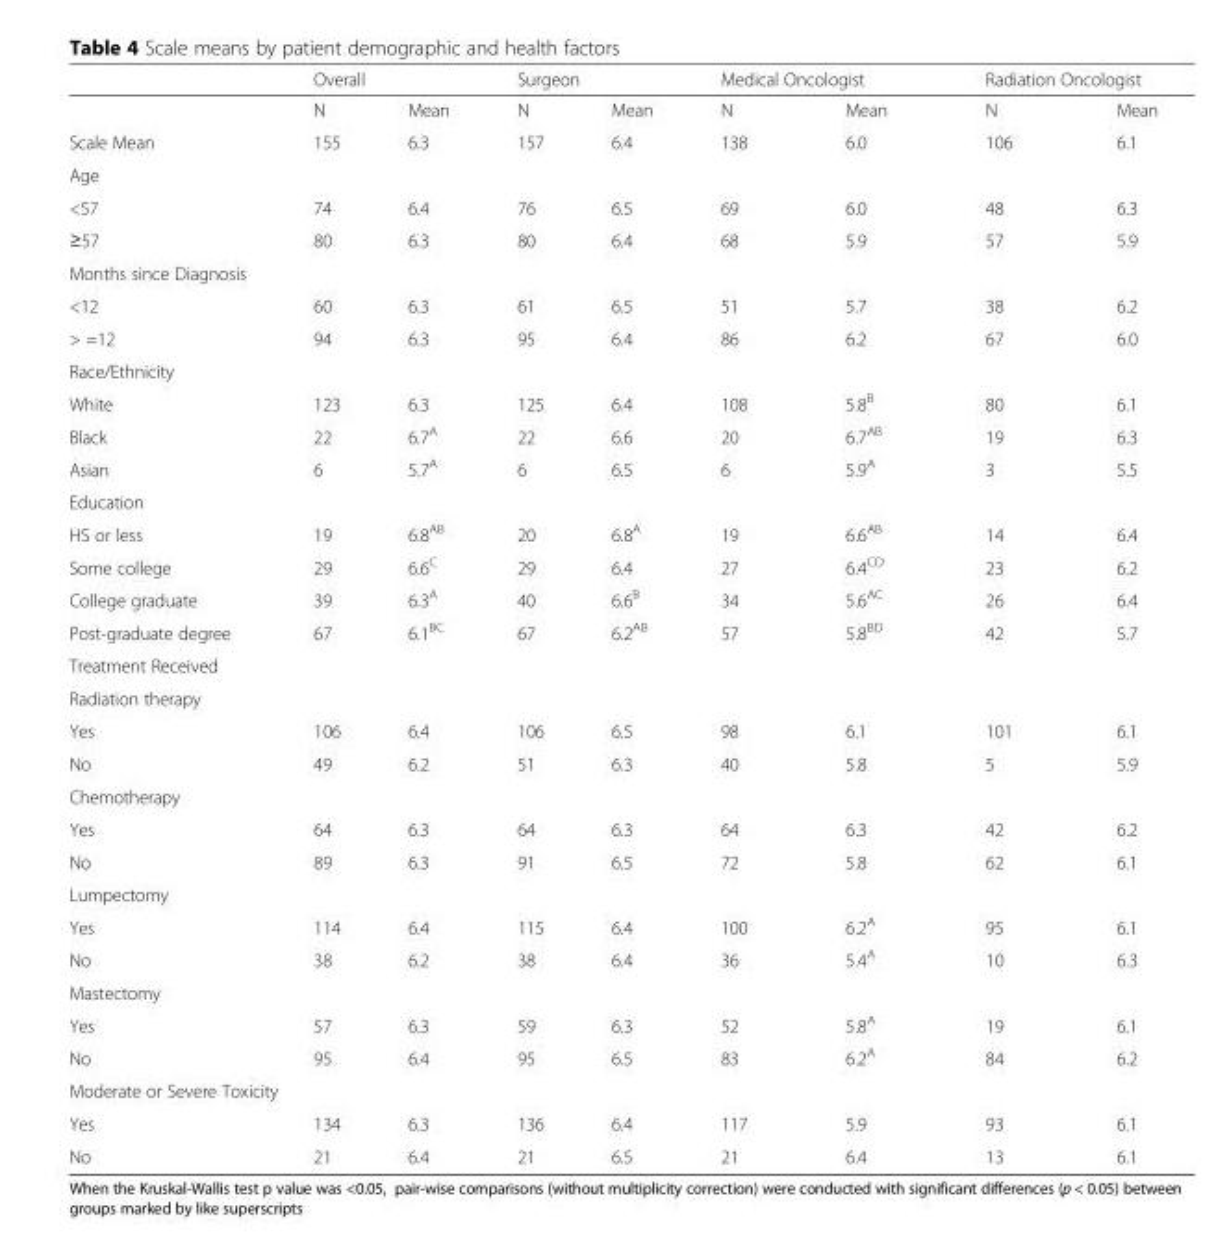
<table><thead><tr><td rowspan="2"></td><td colspan="2">Overall</td><td colspan="2">Surgeon</td><td colspan="2">Medical Oncologist</td><td colspan="2">Radiation Oncologist</td></tr><tr><td>N</td><td>Mean</td><td>N</td><td>Mean</td><td>N</td><td>Mean</td><td>N</td><td>Mean</td></tr></thead><tbody><tr><td>Scale Mean</td><td>155</td><td>6.3</td><td>157</td><td>6.4</td><td>138</td><td>6.0</td><td>106</td><td>6.1</td></tr><tr><td colspan="9">Age</td></tr><tr><td>&lt;57</td><td>74</td><td>6.4</td><td>76</td><td>6.5</td><td>69</td><td>6.0</td><td>48</td><td>6.3</td></tr><tr><td>≥57</td><td>80</td><td>6.3</td><td>80</td><td>6.4</td><td>68</td><td>5.9</td><td>57</td><td>5.9</td></tr><tr><td colspan="9">Months since Diagnosis</td></tr><tr><td>&lt;12</td><td>60</td><td>6.3</td><td>61</td><td>6.5</td><td>51</td><td>5.7</td><td>38</td><td>6.2</td></tr><tr><td>&gt; =12</td><td>94</td><td>6.3</td><td>95</td><td>6.4</td><td>86</td><td>6.2</td><td>67</td><td>6.0</td></tr><tr><td colspan="9">Race/Ethnicity</td></tr><tr><td>White</td><td>123</td><td>6.3</td><td>125</td><td>6.4</td><td>108</td><td>5.8<sup>B</sup></td><td>80</td><td>6.1</td></tr><tr><td>Black</td><td>22</td><td>6.7<sup>A</sup></td><td>22</td><td>6.6</td><td>20</td><td>6.7<sup>AB</sup></td><td>19</td><td>6.3</td></tr><tr><td>Asian</td><td>6</td><td>5.7<sup>A</sup></td><td>6</td><td>6.5</td><td>6</td><td>5.9<sup>A</sup></td><td>3</td><td>5.5</td></tr><tr><td colspan="9">Education</td></tr><tr><td>HS or less</td><td>19</td><td>6.8<sup>AB</sup></td><td>20</td><td>6.8<sup>A</sup></td><td>19</td><td>6.6<sup>AB</sup></td><td>14</td><td>6.4</td></tr><tr><td>Some college</td><td>29</td><td>6.6<sup>C</sup></td><td>29</td><td>6.4</td><td>27</td><td>6.4<sup>CD</sup></td><td>23</td><td>6.2</td></tr><tr><td>College graduate</td><td>39</td><td>6.3<sup>A</sup></td><td>40</td><td>6.6<sup>B</sup></td><td>34</td><td>5.6<sup>AC</sup></td><td>26</td><td>6.4</td></tr><tr><td>Post-graduate degree</td><td>67</td><td>6.1<sup>BC</sup></td><td>67</td><td>6.2<sup>AB</sup></td><td>57</td><td>5.8<sup>BD</sup></td><td>42</td><td>5.7</td></tr><tr><td colspan="9">Treatment Received</td></tr><tr><td colspan="9">Radiation therapy</td></tr><tr><td>Yes</td><td>106</td><td>6.4</td><td>106</td><td>6.5</td><td>98</td><td>6.1</td><td>101</td><td>6.1</td></tr><tr><td>No</td><td>49</td><td>6.2</td><td>51</td><td>6.3</td><td>40</td><td>5.8</td><td>5</td><td>5.9</td></tr><tr><td colspan="9">Chemotherapy</td></tr><tr><td>Yes</td><td>64</td><td>6.3</td><td>64</td><td>6.3</td><td>64</td><td>6.3</td><td>42</td><td>6.2</td></tr><tr><td>No</td><td>89</td><td>6.3</td><td>91</td><td>6.5</td><td>72</td><td>5.8</td><td>62</td><td>6.1</td></tr><tr><td colspan="9">Lumpectomy</td></tr><tr><td>Yes</td><td>114</td><td>6.4</td><td>115</td><td>6.4</td><td>100</td><td>6.2<sup>A</sup></td><td>95</td><td>6.1</td></tr><tr><td>No</td><td>38</td><td>6.2</td><td>38</td><td>6.4</td><td>36</td><td>5.4<sup>A</sup></td><td>10</td><td>6.3</td></tr><tr><td colspan="9">Mastectomy</td></tr><tr><td>Yes</td><td>57</td><td>6.3</td><td>59</td><td>6.3</td><td>52</td><td>5.8<sup>A</sup></td><td>19</td><td>6.1</td></tr><tr><td>No</td><td>95</td><td>6.4</td><td>95</td><td>6.5</td><td>83</td><td>6.2<sup>A</sup></td><td>84</td><td>6.2</td></tr><tr><td colspan="9">Moderate or Severe Toxicity</td></tr><tr><td>Yes</td><td>134</td><td>6.3</td><td>136</td><td>6.4</td><td>117</td><td>5.9</td><td>93</td><td>6.1</td></tr><tr><td>No</td><td>21</td><td>6.4</td><td>21</td><td>6.5</td><td>21</td><td>6.4</td><td>13</td><td>6.1</td></tr></tbody></table>